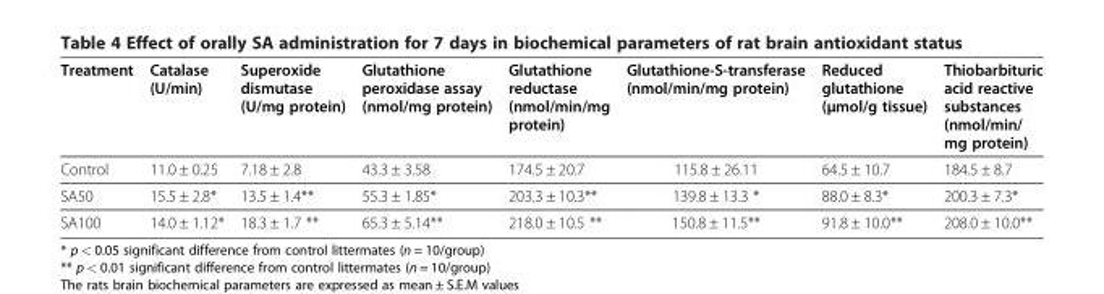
<table><thead><tr><td>Treatment</td><td>Catalase (U/min)</td><td>Superoxide dismutase (U/mg protein)</td><td>Glutathione peroxidase assay (nmol/mg protein)</td><td>Glutathione reductase (nmol/min/mg protein)</td><td>Glutathione-S-transferase (nmol/min/mg protein)</td><td>Reduced glutathione (μmol/g tissue)</td><td>Thiobarbituric acid reactive substances (nmol/min/ mg protein)</td></tr></thead><tbody><tr><td>Control</td><td>11.0 ± 0.25</td><td>7.18 ± 2.8</td><td>43.3 ± 3.58</td><td>174.5 ± 20.7</td><td>115.8 ± 26.11</td><td>64.5 ± 10.7</td><td>184.5 ± 8.7</td></tr><tr><td>SA50</td><td>15.5 ± 2.8*</td><td>13.5 ± 1.4**</td><td>55.3 ± 1.85*</td><td>203.3 ± 10.3**</td><td>139.8 ± 13.3 *</td><td>88.0 ± 8.3*</td><td>200.3 ± 7.3*</td></tr><tr><td>SA100</td><td>14.0 ± 1.12*</td><td>18.3 ± 1.7 **</td><td>65.3 ± 5.14**</td><td>218.0 ± 10.5 **</td><td>150.8 ± 11.5**</td><td>91.8 ± 10.0**</td><td>208.0 ± 10.0**</td></tr></tbody></table>